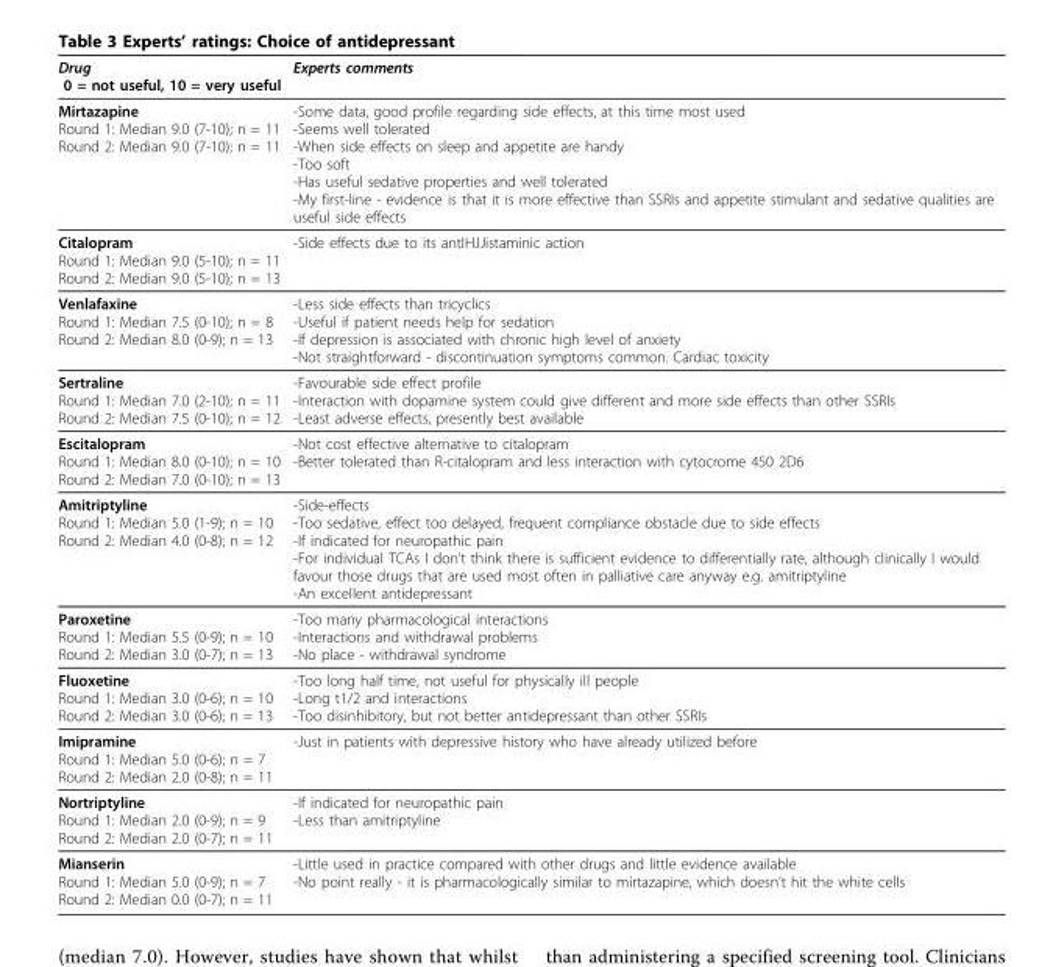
<table><thead><tr><td>Drug 0 = not useful, 10 = very useful</td><td>Experts comments</td></tr></thead><tbody><tr><td>Mirtazapine Round 1: Median 9.0 (7-10); n = 11 Round 2: Median 9.0 (7-10); n = 11</td><td>-Some data, good profile regarding side effects, at this time most used -Seems well tolerated -When side effects on sleep and appetite are handy -Too soft -Has useful sedative properties and well tolerated -My first-line - evidence is that it is more effective than SSRIs and appetite stimulant and sedative qualities are useful side effects</td></tr><tr><td>Citalopram Round 1: Median 9.0 (5-10); n = 11 Round 2: Median 9.0 (5-10); n = 13</td><td>-Side effects due to its antIHJJistaminic action</td></tr><tr><td>Venlafaxine Round 1: Median 7.5 (0-10); n = 8 Round 2: Median 8.0 (0-9); n = 13</td><td>-Less side effects than tricyclics -Useful if patient needs help for sedation -If depression is associated with chronic high level of anxiety -Not straightforward - discontinuation symptoms common. Cardiac toxicity</td></tr><tr><td>Sertraline Round 1: Median 7.0 (2-10); n = 11 Round 2: Median 7.5 (0-10); n = 12</td><td>-Favourable side effect profile -Interaction with dopamine system could give different and more side effects than other SSRIs -Least adverse effects, presently best available</td></tr><tr><td>Escitalopram Round 1: Median 8.0 (0-10); n = 10 Round 2: Median 7.0 (0-10); n = 13</td><td>-Not cost effective alternative to citalopram -Better tolerated than R-citalopram and less interaction with cytocrome 450 2D6</td></tr><tr><td>Amitriptyline Round 1: Median 5.0 (1-9); n = 10 Round 2: Median 4.0 (0-8); n = 12</td><td>-Side-effects -Too sedative, effect too delayed, frequent compliance obstacle due to side effects -If indicated for neuropathic pain -For individual TCAs I don’t think there is sufficient evidence to differentially rate, although clinically I would favour those drugs that are used most often in palliative care anyway e.g. amitriptyline -An excellent antidepressant</td></tr><tr><td>Paroxetine Round 1: Median 5.5 (0-9); n = 10 Round 2: Median 3.0 (0-7); n = 13</td><td>-Too many pharmacological interactions -Interactions and withdrawal problems -No place - withdrawal syndrome</td></tr><tr><td>Fluoxetine Round 1: Median 3.0 (0-6); n = 10 Round 2: Median 3.0 (0-6); n = 13</td><td>-Too long half time, not useful for physically ill people -Long t1/2 and interactions -Too disinhibitory, but not better antidepressant than other SSRIs</td></tr><tr><td>Imipramine Round 1: Median 5.0 (0-6); n = 7 Round 2: Median 2.0 (0-8); n = 11</td><td>-Just in patients with depressive history who have already utilized before</td></tr><tr><td>Nortriptyline Round 1: Median 2.0 (0-9); n = 9 Round 2: Median 2.0 (0-7); n = 11</td><td>-If indicated for neuropathic pain -Less than amitriptyline</td></tr><tr><td>Mianserin Round 1: Median 5.0 (0-9); n = 7 Round 2: Median 0.0 (0-7); n = 11</td><td>-Little used in practice compared with other drugs and little evidence available -No point really - it is pharmacologically similar to mirtazapine, which doesn’t hit the white cells</td></tr></tbody></table>